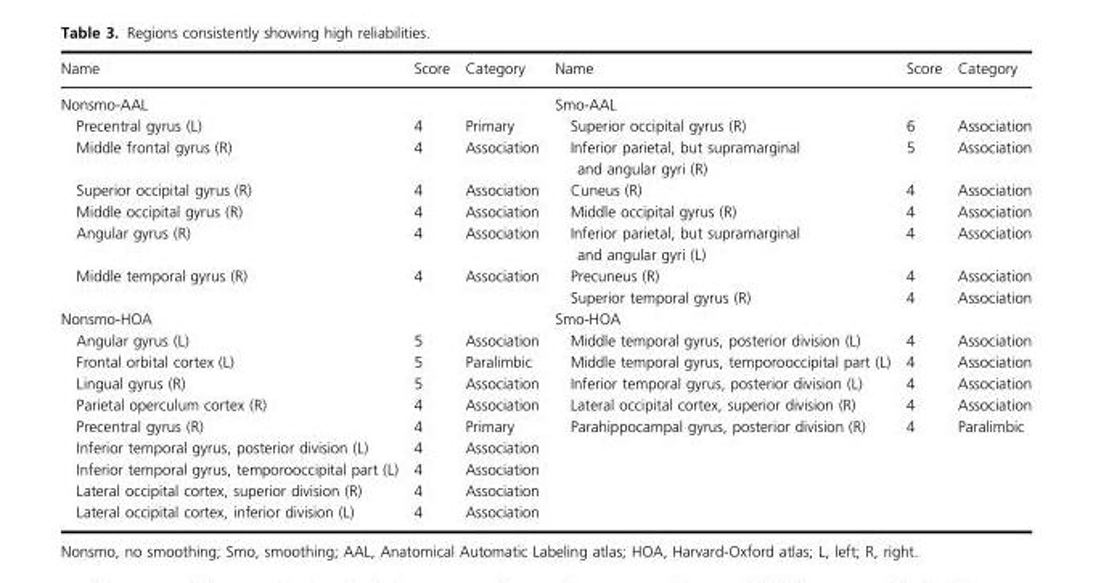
<table><thead><tr><td>Name</td><td>Score</td><td>Category</td><td>Name</td><td>Score</td><td>Category</td></tr></thead><tbody><tr><td colspan="3">Nonsmo-AAL</td><td colspan="3">Smo-AAL</td></tr><tr><td>Precentral gyrus (L)</td><td>4</td><td>Primary</td><td>Superior occipital gyrus (R)</td><td>6</td><td>Association</td></tr><tr><td>Middle frontal gyrus (R)</td><td>4</td><td>Association</td><td>Inferior parietal, but supramarginal and angular gyri (R)</td><td>5</td><td>Association</td></tr><tr><td>Superior occipital gyrus (R)</td><td>4</td><td>Association</td><td>Cuneus (R)</td><td>4</td><td>Association</td></tr><tr><td>Middle occipital gyrus (R)</td><td>4</td><td>Association</td><td>Middle occipital gyrus (R)</td><td>4</td><td>Association</td></tr><tr><td>Angular gyrus (R)</td><td>4</td><td>Association</td><td>Inferior parietal, but supramarginal and angular gyri (L)</td><td>4</td><td>Association</td></tr><tr><td rowspan="2">Middle temporal gyrus (R)</td><td>4</td><td>Association</td><td>Precuneus (R)</td><td>4</td><td>Association</td></tr><tr><td></td><td></td><td>Superior temporal gyrus (R)</td><td>4</td><td>Association</td></tr><tr><td colspan="3">Nonsmo-HOA</td><td colspan="3">Smo-HOA</td></tr><tr><td>Angular gyrus (L)</td><td>5</td><td>Association</td><td>Middle temporal gyrus, posterior division (L)</td><td>4</td><td>Association</td></tr><tr><td>Frontal orbital cortex (L)</td><td>5</td><td>Paralimbic</td><td>Middle temporal gyrus, temporooccipital part (L)</td><td>4</td><td>Association</td></tr><tr><td>Lingual gyrus (R)</td><td>5</td><td>Association</td><td>Inferior temporal gyrus, posterior division (L)</td><td>4</td><td>Association</td></tr><tr><td>Parietal operculum cortex (R)</td><td>4</td><td>Association</td><td>Lateral occipital cortex, superior division (R)</td><td>4</td><td>Association</td></tr><tr><td>Precentral gyrus (R)</td><td>4</td><td>Primary</td><td>Parahippocampal gyrus, posterior division (R)</td><td>4</td><td>Paralimbic</td></tr><tr><td>Inferior temporal gyrus, posterior division (L)</td><td>4</td><td>Association</td><td></td><td></td><td></td></tr><tr><td>Inferior temporal gyrus, temporooccipital part (L)</td><td>4</td><td>Association</td><td></td><td></td><td></td></tr><tr><td>Lateral occipital cortex, superior division (R)</td><td>4</td><td>Association</td><td></td><td></td><td></td></tr><tr><td>Lateral occipital cortex, inferior division (L)</td><td>4</td><td>Association</td><td></td><td></td><td></td></tr></tbody></table>